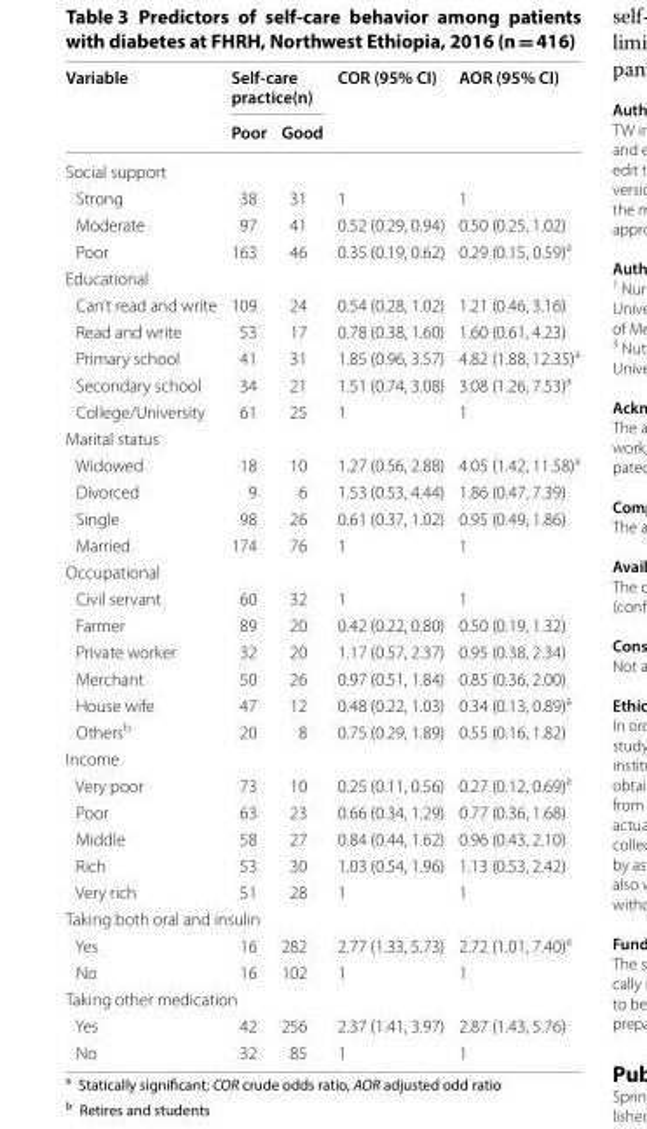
<table><thead><tr><td rowspan="2">Variable</td><td colspan="2">Self-care practice(n)</td><td rowspan="2">COR (95% CI)</td><td rowspan="2">AOR (95% CI)</td></tr><tr><td>Poor</td><td>Good</td></tr></thead><tbody><tr><td colspan="5">Social support</td></tr><tr><td>Strong</td><td>38</td><td>31</td><td>1</td><td>1</td></tr><tr><td>Moderate</td><td>97</td><td>41</td><td>0.52 (0.29, 0.94)</td><td>0.50 (0.25, 1.02)</td></tr><tr><td>Poor</td><td>163</td><td>46</td><td>0.35 (0.19, 0.62)</td><td>0.29 (0.15, 0.59)<sup>a</sup></td></tr><tr><td colspan="5">Educational</td></tr><tr><td>Can’t read and write</td><td>109</td><td>24</td><td>0.54 (0.28, 1.02)</td><td>1.21 (0.46, 3.16)</td></tr><tr><td>Read and write</td><td>53</td><td>17</td><td>0.78 (0.38, 1.60)</td><td>1.60 (0.61, 4.23)</td></tr><tr><td>Primary school</td><td>41</td><td>31</td><td>1.85 (0.96, 3.57)</td><td>4.82 (1.88, 12.35)<sup>a</sup></td></tr><tr><td>Secondary school</td><td>34</td><td>21</td><td>1.51 (0.74, 3.08)</td><td>3.08 (1.26, 7.53)<sup>a</sup></td></tr><tr><td>College/University</td><td>61</td><td>25</td><td>1</td><td>1</td></tr><tr><td colspan="5">Marital status</td></tr><tr><td>Widowed</td><td>18</td><td>10</td><td>1.27 (0.56, 2.88)</td><td>4.05 (1.42, 11.58)<sup>a</sup></td></tr><tr><td>Divorced</td><td>9</td><td>6</td><td>1.53 (0.53, 4.44)</td><td>1.86 (0.47, 7.39)</td></tr><tr><td>Single</td><td>98</td><td>26</td><td>0.61 (0.37, 1.02)</td><td>0.95 (0.49, 1.86)</td></tr><tr><td>Married</td><td>174</td><td>76</td><td>1</td><td>1</td></tr><tr><td colspan="5">Occupational</td></tr><tr><td>Civil servant</td><td>60</td><td>32</td><td>1</td><td>1</td></tr><tr><td>Farmer</td><td>89</td><td>20</td><td>0.42 (0.22, 0.80)</td><td>0.50 (0.19, 1.32)</td></tr><tr><td>Private worker</td><td>32</td><td>20</td><td>1.17 (0.57, 2.37)</td><td>0.95 (0.38, 2.34)</td></tr><tr><td>Merchant</td><td>50</td><td>26</td><td>0.97 (0.51, 1.84)</td><td>0.85 (0.36, 2.00)</td></tr><tr><td>House wife</td><td>47</td><td>12</td><td>0.48 (0.22, 1.03)</td><td>0.34 (0.13, 0.89)<sup>a</sup></td></tr><tr><td>Others<sup>b</sup></td><td>20</td><td>8</td><td>0.75 (0.29, 1.89)</td><td>0.55 (0.16, 1.82)</td></tr><tr><td colspan="5">Income</td></tr><tr><td>Very poor</td><td>73</td><td>10</td><td>0.25 (0.11, 0.56)</td><td>0.27 (0.12, 0.69)<sup>a</sup></td></tr><tr><td>Poor</td><td>63</td><td>23</td><td>0.66 (0.34, 1.29)</td><td>0.77 (0.36, 1.68)</td></tr><tr><td>Middle</td><td>58</td><td>27</td><td>0.84 (0.44, 1.62)</td><td>0.96 (0.43, 2.10)</td></tr><tr><td>Rich</td><td>53</td><td>30</td><td>1.03 (0.54, 1.96)</td><td>1.13 (0.53, 2.42)</td></tr><tr><td>Very rich</td><td>51</td><td>28</td><td>1</td><td>1</td></tr><tr><td colspan="5">Taking both oral and insulin</td></tr><tr><td>Yes</td><td>16</td><td>282</td><td>2.77 (1.33, 5.73)</td><td>2.72 (1.01, 7.40)<sup>a</sup></td></tr><tr><td>No</td><td>16</td><td>102</td><td>1</td><td>1</td></tr><tr><td colspan="5">Taking other medication</td></tr><tr><td>Yes</td><td>42</td><td>256</td><td>2.37 (1.41, 3.97)</td><td>2.87 (1.43, 5.76)</td></tr><tr><td>No</td><td>32</td><td>85</td><td>1</td><td>1</td></tr></tbody></table>